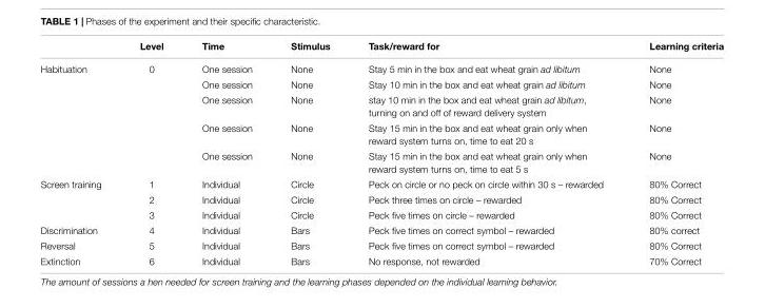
<table><thead><tr><td></td><td>Level</td><td>Time</td><td>Stimulus</td><td>Task/reward for</td><td>Learning criteria</td></tr></thead><tbody><tr><td rowspan="5">Habituation</td><td>0</td><td>One session</td><td>None</td><td>Stay 5 min in the box and eat wheat grain ad libitum</td><td>None</td></tr><tr><td></td><td>One session</td><td>None</td><td>Stay 10 min in the box and eat wheat grain ad libitum</td><td>None</td></tr><tr><td></td><td>One session</td><td>None</td><td>stay 10 min in the box and eat wheat grain ad libitum, turning on and off of reward delivery system</td><td>None</td></tr><tr><td></td><td>One session</td><td>None</td><td>Stay 15 min in the box and eat wheat grain only when reward system turns on, time to eat 20 s</td><td>None</td></tr><tr><td></td><td>One session</td><td>None</td><td>Stay 15 min in the box and eat wheat grain only when reward system turns on, time to eat 5 s</td><td>None</td></tr><tr><td rowspan="3">Screen training</td><td>1</td><td>Individual</td><td>Circle</td><td>Peck on circle or no peck on circle within 30 s – rewarded</td><td>80% Correct</td></tr><tr><td>2</td><td>Individual</td><td>Circle</td><td>Peck three times on circle – rewarded</td><td>80% Correct</td></tr><tr><td>3</td><td>Individual</td><td>Circle</td><td>Peck five times on circle – rewarded</td><td>80% Correct</td></tr><tr><td>Discrimination</td><td>4</td><td>Individual</td><td>Bars</td><td>Peck five times on correct symbol – rewarded</td><td>80% correct</td></tr><tr><td>Reversal</td><td>5</td><td>Individual</td><td>Bars</td><td>Peck five times on correct symbol – rewarded</td><td>80% Correct</td></tr><tr><td>Extinction</td><td>6</td><td>Individual</td><td>Bars</td><td>No response, not rewarded</td><td>70% Correct</td></tr></tbody></table>